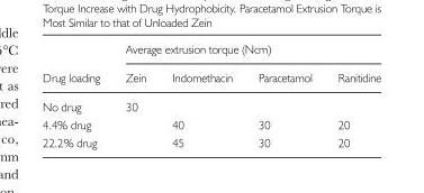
<table><thead><tr><td rowspan="2">Drug loading</td><td colspan="4">Average extrusion torque (Ncm)</td></tr><tr><td>Zein</td><td>Indomethacin</td><td>Paracetamol</td><td>Ranitidine</td></tr></thead><tbody><tr><td>No drug</td><td>30</td><td></td><td></td><td></td></tr><tr><td>4.4% drug</td><td></td><td>40</td><td>30</td><td>20</td></tr><tr><td>22.2% drug</td><td></td><td>45</td><td>30</td><td>20</td></tr></tbody></table>